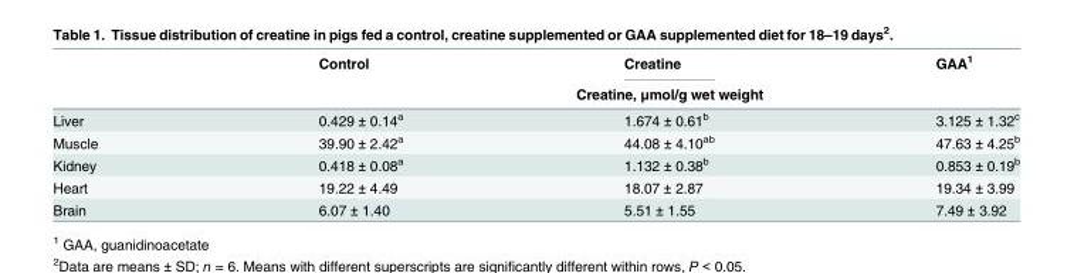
<table><thead><tr><td rowspan="2"></td><td>Control</td><td>Creatine</td><td>GAA<sup>1</sup></td></tr><tr><td colspan="3">Creatine, μmol/g wet weight</td></tr></thead><tbody><tr><td>Liver</td><td>0.429 ± 0.14<sup>a</sup></td><td>1.674 ± 0.61<sup>b</sup></td><td>3.125 ± 1.32<sup>c</sup></td></tr><tr><td>Muscle</td><td>39.90 ± 2.42<sup>a</sup></td><td>44.08 ± 4.10<sup>ab</sup></td><td>47.63 ± 4.25<sup>b</sup></td></tr><tr><td>Kidney</td><td>0.418 ± 0.08<sup>a</sup></td><td>1.132 ± 0.38<sup>b</sup></td><td>0.853 ± 0.19<sup>b</sup></td></tr><tr><td>Heart</td><td>19.22 ± 4.49</td><td>18.07 ± 2.87</td><td>19.34 ± 3.99</td></tr><tr><td>Brain</td><td>6.07 ± 1.40</td><td>5.51 ± 1.55</td><td>7.49 ± 3.92</td></tr></tbody></table>